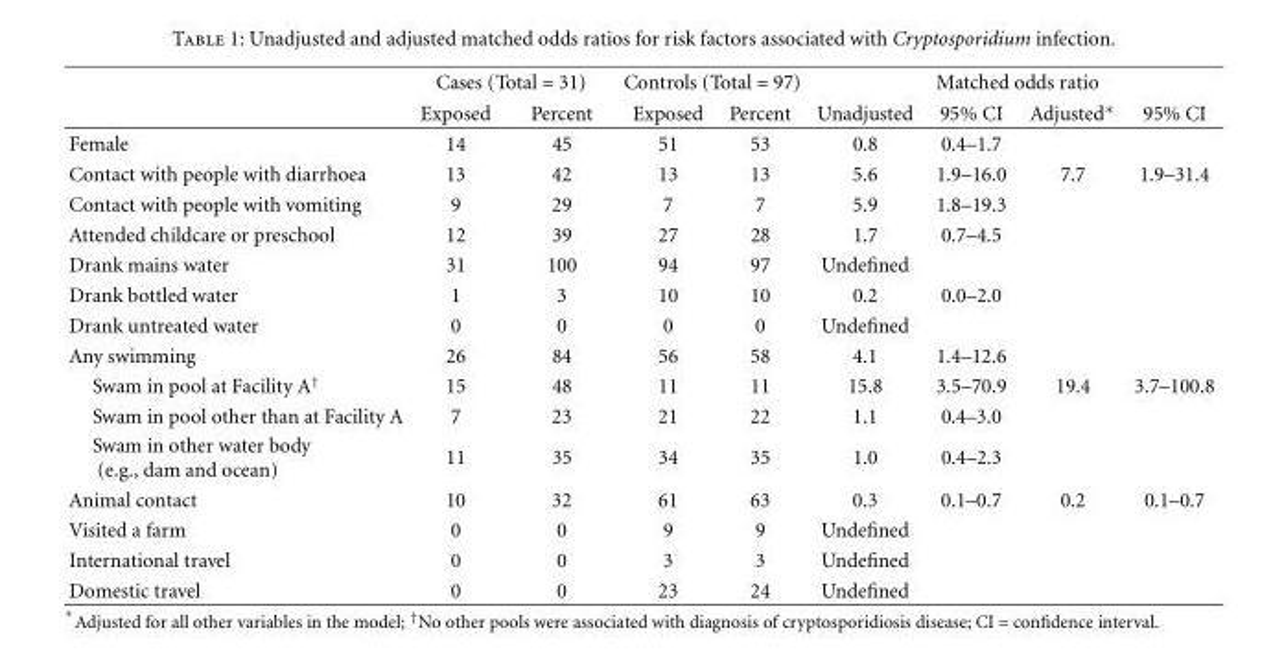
<table><thead><tr><td rowspan="2"></td><td colspan="2">Cases (Total = 31)</td><td colspan="2">Controls (Total = 97)</td><td colspan="4">Matched odds ratio</td></tr><tr><td>Exposed</td><td>Percent</td><td>Exposed</td><td>Percent</td><td>Unadjusted</td><td>95% CI</td><td>Adjusted∗</td><td>95% CI</td></tr></thead><tbody><tr><td>Female</td><td>14</td><td>45</td><td>51</td><td>53</td><td>0.8</td><td>0.4–1.7</td><td></td><td></td></tr><tr><td>Contact with people with diarrhoea</td><td>13</td><td>42</td><td>13</td><td>13</td><td>5.6</td><td>1.9–16.0</td><td>7.7</td><td>1.9–31.4</td></tr><tr><td>Contact with people with vomiting</td><td>9</td><td>29</td><td>7</td><td>7</td><td>5.9</td><td>1.8–19.3</td><td></td><td></td></tr><tr><td>Attended childcare or preschool</td><td>12</td><td>39</td><td>27</td><td>28</td><td>1.7</td><td>0.7–4.5</td><td></td><td></td></tr><tr><td>Drank mains water</td><td>31</td><td>100</td><td>94</td><td>97</td><td>Undefined</td><td></td><td></td><td></td></tr><tr><td>Drank bottled water</td><td>1</td><td>3</td><td>10</td><td>10</td><td>0.2</td><td>0.0–2.0</td><td></td><td></td></tr><tr><td>Drank untreated water</td><td>0</td><td>0</td><td>0</td><td>0</td><td>Undefined</td><td></td><td></td><td></td></tr><tr><td>Any swimming</td><td>26</td><td>84</td><td>56</td><td>58</td><td>4.1</td><td>1.4–12.6</td><td></td><td></td></tr><tr><td>Swam in pool at Facility A<sup>†</sup></td><td>15</td><td>48</td><td>11</td><td>11</td><td>15.8</td><td>3.5–70.9</td><td>19.4</td><td>3.7–100.8</td></tr><tr><td>Swam in pool other than at Facility A</td><td>7</td><td>23</td><td>21</td><td>22</td><td>1.1</td><td>0.4–3.0</td><td></td><td></td></tr><tr><td>Swam in other water body (e.g., dam and ocean)</td><td>11</td><td>35</td><td>34</td><td>35</td><td>1.0</td><td>0.4–2.3</td><td></td><td></td></tr><tr><td>Animal contact</td><td>10</td><td>32</td><td>61</td><td>63</td><td>0.3</td><td>0.1–0.7</td><td>0.2</td><td>0.1–0.7</td></tr><tr><td>Visited a farm</td><td>0</td><td>0</td><td>9</td><td>9</td><td>Undefined</td><td></td><td></td><td></td></tr><tr><td>International travel</td><td>0</td><td>0</td><td>3</td><td>3</td><td>Undefined</td><td></td><td></td><td></td></tr><tr><td>Domestic travel</td><td>0</td><td>0</td><td>23</td><td>24</td><td>Undefined</td><td></td><td></td><td></td></tr></tbody></table>